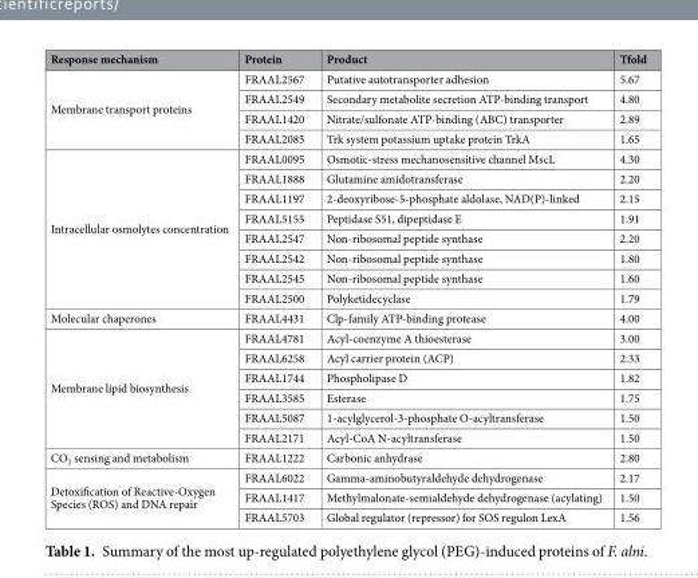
<table><thead><tr><td>Response mechanism</td><td>Protein</td><td>Product</td><td>Tfold</td></tr></thead><tbody><tr><td rowspan="4">Membrane transport proteins</td><td>FRAAL2567</td><td>Putative autotransporter adhesion</td><td>5.67</td></tr><tr><td>FRAAL2549</td><td>Secondary metabolite secretion ATP-binding transport</td><td>4.80</td></tr><tr><td>FRAAL1420</td><td>Nitrate/sulfonate ATP-binding (ABC) transporter</td><td>2.89</td></tr><tr><td>FRAAL2085</td><td>Trk system potassium uptake protein TrkA</td><td>1.65</td></tr><tr><td rowspan="8">Intracellular osmolytes concentration</td><td>FRAAL0095</td><td>Osmotic-stress mechanosensitive channel MscL</td><td>4.30</td></tr><tr><td>FRAAL1888</td><td>Glutamine amidotransferase</td><td>2.20</td></tr><tr><td>FRAAL1197</td><td>2-deoxyribose-5-phosphate aldolase, NAD(P)-linked</td><td>2.15</td></tr><tr><td>FRAAL5155</td><td>Peptidase S51, dipeptidase E</td><td>1.91</td></tr><tr><td>FRAAL2547</td><td>Non-ribosomal peptide synthase</td><td>2.20</td></tr><tr><td>FRAAL2542</td><td>Non-ribosomal peptide synthase</td><td>1.80</td></tr><tr><td>FRAAL2545</td><td>Non-ribosomal peptide synthase</td><td>1.60</td></tr><tr><td>FRAAL2500</td><td>Polyketidecyclase</td><td>1.79</td></tr><tr><td>Molecular chaperones</td><td>FRAAL4431</td><td>Clp-family ATP-binding protease</td><td>4.00</td></tr><tr><td rowspan="6">Membrane lipid biosynthesis</td><td>FRAAL4781</td><td>Acyl-coenzyme A thioesterase</td><td>3.00</td></tr><tr><td>FRAAL6258</td><td>Acyl carrier protein (ACP)</td><td>2.33</td></tr><tr><td>FRAAL1744</td><td>Phospholipase D</td><td>1.82</td></tr><tr><td>FRAAL3585</td><td>Esterase</td><td>1.75</td></tr><tr><td>FRAAL5087</td><td>1-acylglycerol-3-phosphate O-acyltransferase</td><td>1.50</td></tr><tr><td>FRAAL2171</td><td>Acyl-CoA N-acyltransferase</td><td>1.50</td></tr><tr><td>CO<sub>2</sub> sensing and metabolism</td><td>FRAAL1222</td><td>Carbonic anhydrase</td><td>2.80</td></tr><tr><td rowspan="3">Detoxification of Reactive-Oxygen Species (ROS) and DNA repair</td><td>FRAAL6022</td><td>Gamma-aminobutyraldehyde dehydrogenase</td><td>2.17</td></tr><tr><td>FRAAL1417</td><td>Methylmalonate-semialdehyde dehydrogenase (acylating)</td><td>1.50</td></tr><tr><td>FRAAL5703</td><td>Global regulator (repressor) for SOS regulon LexA</td><td>1.56</td></tr></tbody></table>